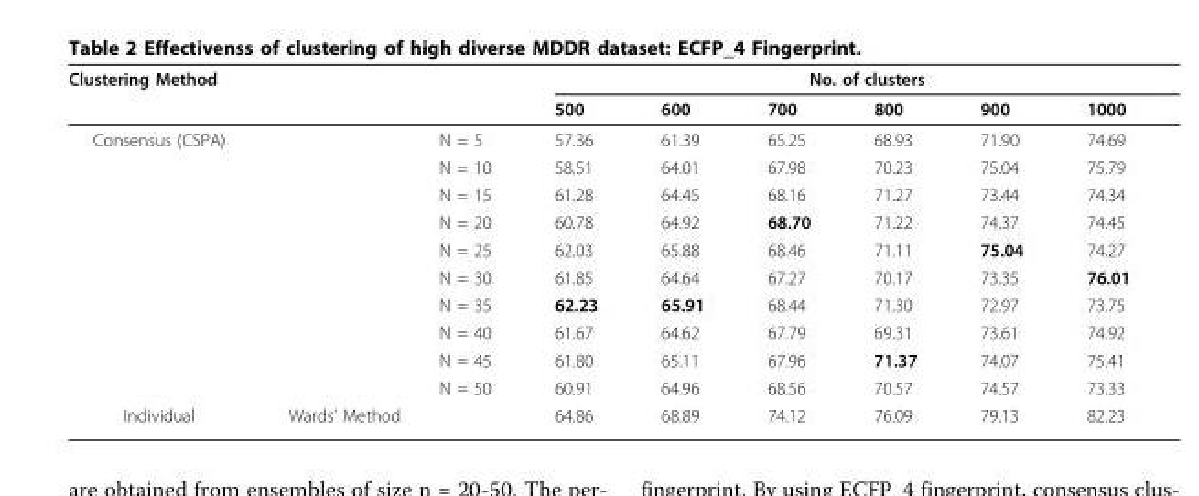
<table><thead><tr><td colspan="3">Clustering Method</td><td colspan="6">No. of clusters</td></tr><tr><td></td><td></td><td></td><td>500</td><td>600</td><td>700</td><td>800</td><td>900</td><td>1000</td></tr></thead><tbody><tr><td rowspan="10">Consensus (CSPA)</td><td></td><td>N = 5</td><td>57.36</td><td>61.39</td><td>65.25</td><td>68.93</td><td>71.90</td><td>74.69</td></tr><tr><td></td><td>N = 10</td><td>58.51</td><td>64.01</td><td>67.98</td><td>70.23</td><td>75.04</td><td>75.79</td></tr><tr><td></td><td>N = 15</td><td>61.28</td><td>64.45</td><td>68.16</td><td>71.27</td><td>73.44</td><td>74.34</td></tr><tr><td></td><td>N = 20</td><td>60.78</td><td>64.92</td><td>68.70</td><td>71.22</td><td>74.37</td><td>74.45</td></tr><tr><td></td><td>N = 25</td><td>62.03</td><td>65.88</td><td>68.46</td><td>71.11</td><td>75.04</td><td>74.27</td></tr><tr><td></td><td>N = 30</td><td>61.85</td><td>64.64</td><td>67.27</td><td>70.17</td><td>73.35</td><td>76.01</td></tr><tr><td></td><td>N = 35</td><td>62.23</td><td>65.91</td><td>68.44</td><td>71.30</td><td>72.97</td><td>73.75</td></tr><tr><td></td><td>N = 40</td><td>61.67</td><td>64.62</td><td>67.79</td><td>69.31</td><td>73.61</td><td>74.92</td></tr><tr><td></td><td>N = 45</td><td>61.80</td><td>65.11</td><td>67.96</td><td>71.37</td><td>74.07</td><td>75.41</td></tr><tr><td></td><td>N = 50</td><td>60.91</td><td>64.96</td><td>68.56</td><td>70.57</td><td>74.57</td><td>73.33</td></tr><tr><td>Individual</td><td>Wards’ Method</td><td></td><td>64.86</td><td>68.89</td><td>74.12</td><td>76.09</td><td>79.13</td><td>82.23</td></tr></tbody></table>